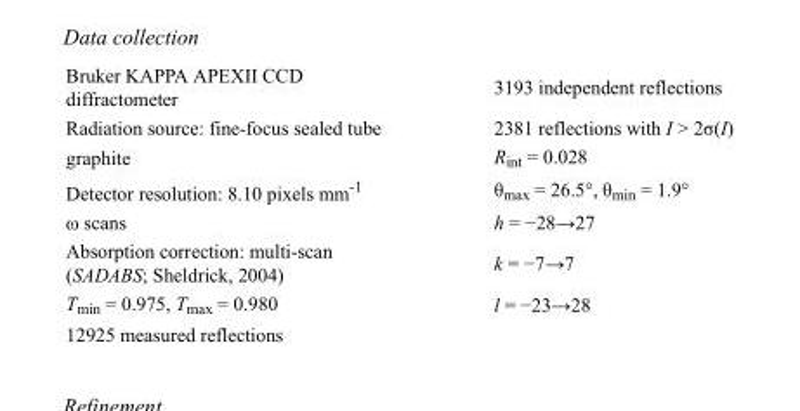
<table><tbody><tr><td>Bruker KAPPA APEXII CCD diffractometer</td><td>3193 independent reflections</td></tr><tr><td>Radiation source: fine-focus sealed tube</td><td>2381 reflections with I &gt; 2σ(I)</td></tr><tr><td>graphite</td><td>R<sub>int</sub> = 0.028</td></tr><tr><td>Detector resolution: 8.10 pixels mm<sup>-1</sup></td><td>θ<sub>max</sub> = 26.5°, θ<sub>min</sub> = 1.9°</td></tr><tr><td>ω scans</td><td>h = −28→27</td></tr><tr><td>Absorption correction: multi-scan (SADABS; Sheldrick, 2004)</td><td>k = −7→7</td></tr><tr><td>T<sub>min</sub> = 0.975, T<sub>max</sub> = 0.980</td><td>l = −23→28</td></tr><tr><td>12925 measured reflections</td><td></td></tr></tbody></table>